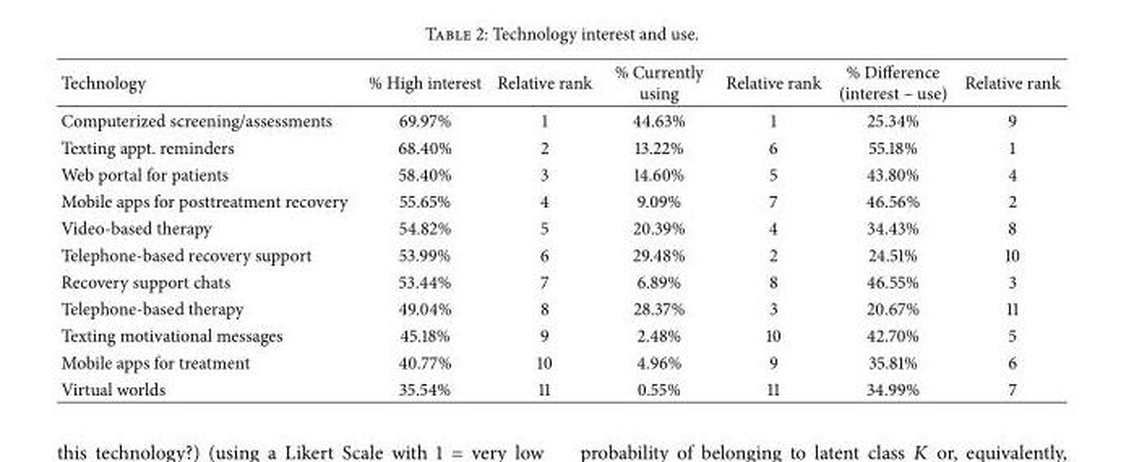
<table><thead><tr><td>Technology</td><td>% High interest</td><td>Relative rank</td><td>% Currently using</td><td>Relative rank</td><td>% Difference (interest – use)</td><td>Relative rank</td></tr></thead><tbody><tr><td>Computerized screening/assessments</td><td>69.97%</td><td>1</td><td>44.63%</td><td>1</td><td>25.34%</td><td>9</td></tr><tr><td>Texting appt. reminders</td><td>68.40%</td><td>2</td><td>13.22%</td><td>6</td><td>55.18%</td><td>1</td></tr><tr><td>Web portal for patients</td><td>58.40%</td><td>3</td><td>14.60%</td><td>5</td><td>43.80%</td><td>4</td></tr><tr><td>Mobile apps for posttreatment recovery</td><td>55.65%</td><td>4</td><td>9.09%</td><td>7</td><td>46.56%</td><td>2</td></tr><tr><td>Video-based therapy</td><td>54.82%</td><td>5</td><td>20.39%</td><td>4</td><td>34.43%</td><td>8</td></tr><tr><td>Telephone-based recovery support</td><td>53.99%</td><td>6</td><td>29.48%</td><td>2</td><td>24.51%</td><td>10</td></tr><tr><td>Recovery support chats</td><td>53.44%</td><td>7</td><td>6.89%</td><td>8</td><td>46.55%</td><td>3</td></tr><tr><td>Telephone-based therapy</td><td>49.04%</td><td>8</td><td>28.37%</td><td>3</td><td>20.67%</td><td>11</td></tr><tr><td>Texting motivational messages</td><td>45.18%</td><td>9</td><td>2.48%</td><td>10</td><td>42.70%</td><td>5</td></tr><tr><td>Mobile apps for treatment</td><td>40.77%</td><td>10</td><td>4.96%</td><td>9</td><td>35.81%</td><td>6</td></tr><tr><td>Virtual worlds</td><td>35.54%</td><td>11</td><td>0.55%</td><td>11</td><td>34.99%</td><td>7</td></tr></tbody></table>